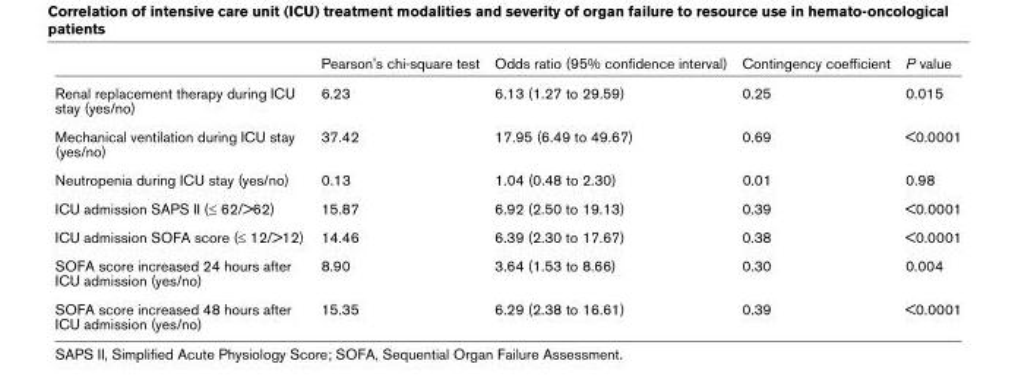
<table><thead><tr><td></td><td>Pearson&#x27;s chi-square test</td><td>Odds ratio (95% confidence interval)</td><td>Contingency coefficient</td><td>P value</td></tr></thead><tbody><tr><td>Renal replacement therapy during ICU stay (yes/no)</td><td>6.23</td><td>6.13 (1.27 to 29.59)</td><td>0.25</td><td>0.015</td></tr><tr><td>Mechanical ventilation during ICU stay (yes/no)</td><td>37.42</td><td>17.95 (6.49 to 49.67)</td><td>0.69</td><td>&lt;0.0001</td></tr><tr><td>Neutropenia during ICU stay (yes/no)</td><td>0.13</td><td>1.04 (0.48 to 2.30)</td><td>0.01</td><td>0.98</td></tr><tr><td>ICU admission SAPS II (≤ 62/&gt;62)</td><td>15.87</td><td>6.92 (2.50 to 19.13)</td><td>0.39</td><td>&lt;0.0001</td></tr><tr><td>ICU admission SOFA score (≤ 12/&gt;12)</td><td>14.46</td><td>6.39 (2.30 to 17.67)</td><td>0.38</td><td>&lt;0.0001</td></tr><tr><td>SOFA score increased 24 hours after ICU admission (yes/no)</td><td>8.90</td><td>3.64 (1.53 to 8.66)</td><td>0.30</td><td>0.004</td></tr><tr><td>SOFA score increased 48 hours after ICU admission (yes/no)</td><td>15.35</td><td>6.29 (2.38 to 16.61)</td><td>0.39</td><td>&lt;0.0001</td></tr></tbody></table>